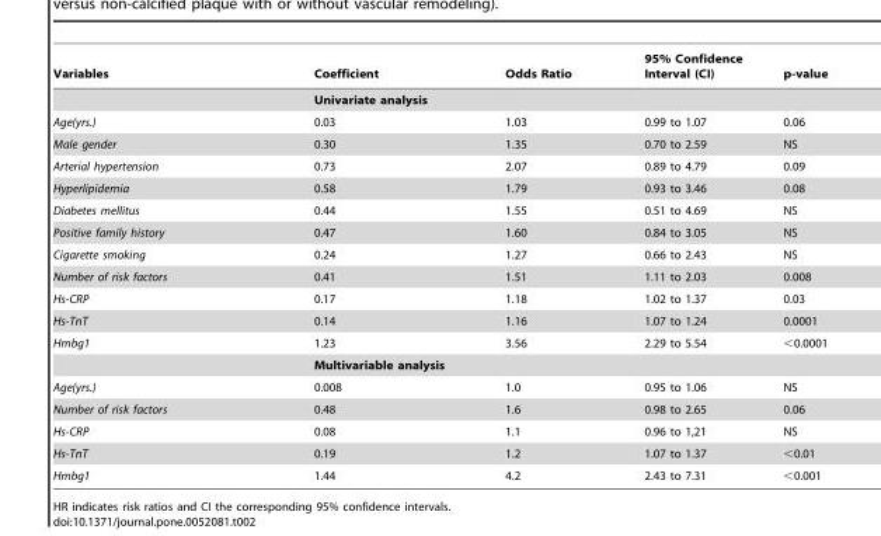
<table><thead><tr><td>Variables</td><td>Coefficient</td><td>Odds Ratio</td><td>95% Confidence Interval (CI)</td><td>p-value</td></tr></thead><tbody><tr><td></td><td colspan="4">Univariate analysis</td></tr><tr><td>Age(yrs.)</td><td>0.03</td><td>1.03</td><td>0.99 to 1.07</td><td>0.06</td></tr><tr><td>Male gender</td><td>0.30</td><td>1.35</td><td>0.70 to 2.59</td><td>NS</td></tr><tr><td>Arterial hypertension</td><td>0.73</td><td>2.07</td><td>0.89 to 4.79</td><td>0.09</td></tr><tr><td>Hyperlipidemia</td><td>0.58</td><td>1.79</td><td>0.93 to 3.46</td><td>0.08</td></tr><tr><td>Diabetes mellitus</td><td>0.44</td><td>1.55</td><td>0.51 to 4.69</td><td>NS</td></tr><tr><td>Positive family history</td><td>0.47</td><td>1.60</td><td>0.84 to 3.05</td><td>NS</td></tr><tr><td>Cigarette smoking</td><td>0.24</td><td>1.27</td><td>0.66 to 2.43</td><td>NS</td></tr><tr><td>Number of risk factors</td><td>0.41</td><td>1.51</td><td>1.11 to 2.03</td><td>0.008</td></tr><tr><td>Hs-CRP</td><td>0.17</td><td>1.18</td><td>1.02 to 1.37</td><td>0.03</td></tr><tr><td>Hs-TnT</td><td>0.14</td><td>1.16</td><td>1.07 to 1.24</td><td>0.0001</td></tr><tr><td rowspan="2">Hmbg1</td><td>1.23</td><td>3.56</td><td>2.29 to 5.54</td><td>&lt;0.0001</td></tr><tr><td colspan="4">Multivariable analysis</td></tr><tr><td>Age(yrs.)</td><td>0.008</td><td>1.0</td><td>0.95 to 1.06</td><td>NS</td></tr><tr><td>Number of risk factors</td><td>0.48</td><td>1.6</td><td>0.98 to 2.65</td><td>0.06</td></tr><tr><td>Hs-CRP</td><td>0.08</td><td>1.1</td><td>0.96 to 1,21</td><td>NS</td></tr><tr><td>Hs-TnT</td><td>0.19</td><td>1.2</td><td>1.07 to 1.37</td><td>&lt;0.01</td></tr><tr><td>Hmbg1</td><td>1.44</td><td>4.2</td><td>2.43 to 7.31</td><td>&lt;0.001</td></tr></tbody></table>